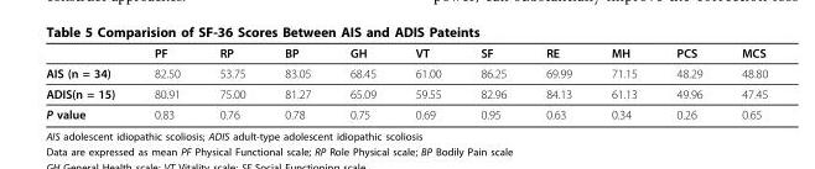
<table><thead><tr><td></td><td>PF</td><td>RP</td><td>BP</td><td>GH</td><td>VT</td><td>SF</td><td>RE</td><td>MH</td><td>PCS</td><td>MCS</td></tr></thead><tbody><tr><td>AIS (n = 34)</td><td>82.50</td><td>53.75</td><td>83.05</td><td>68.45</td><td>61.00</td><td>86.25</td><td>69.99</td><td>71.15</td><td>48.29</td><td>48.80</td></tr><tr><td>ADIS(n = 15)</td><td>80.91</td><td>75.00</td><td>81.27</td><td>65.09</td><td>59.55</td><td>82.96</td><td>84.13</td><td>61.13</td><td>49.96</td><td>47.45</td></tr><tr><td>P value</td><td>0.83</td><td>0.76</td><td>0.78</td><td>0.75</td><td>0.69</td><td>0.95</td><td>0.63</td><td>0.34</td><td>0.26</td><td>0.65</td></tr></tbody></table>